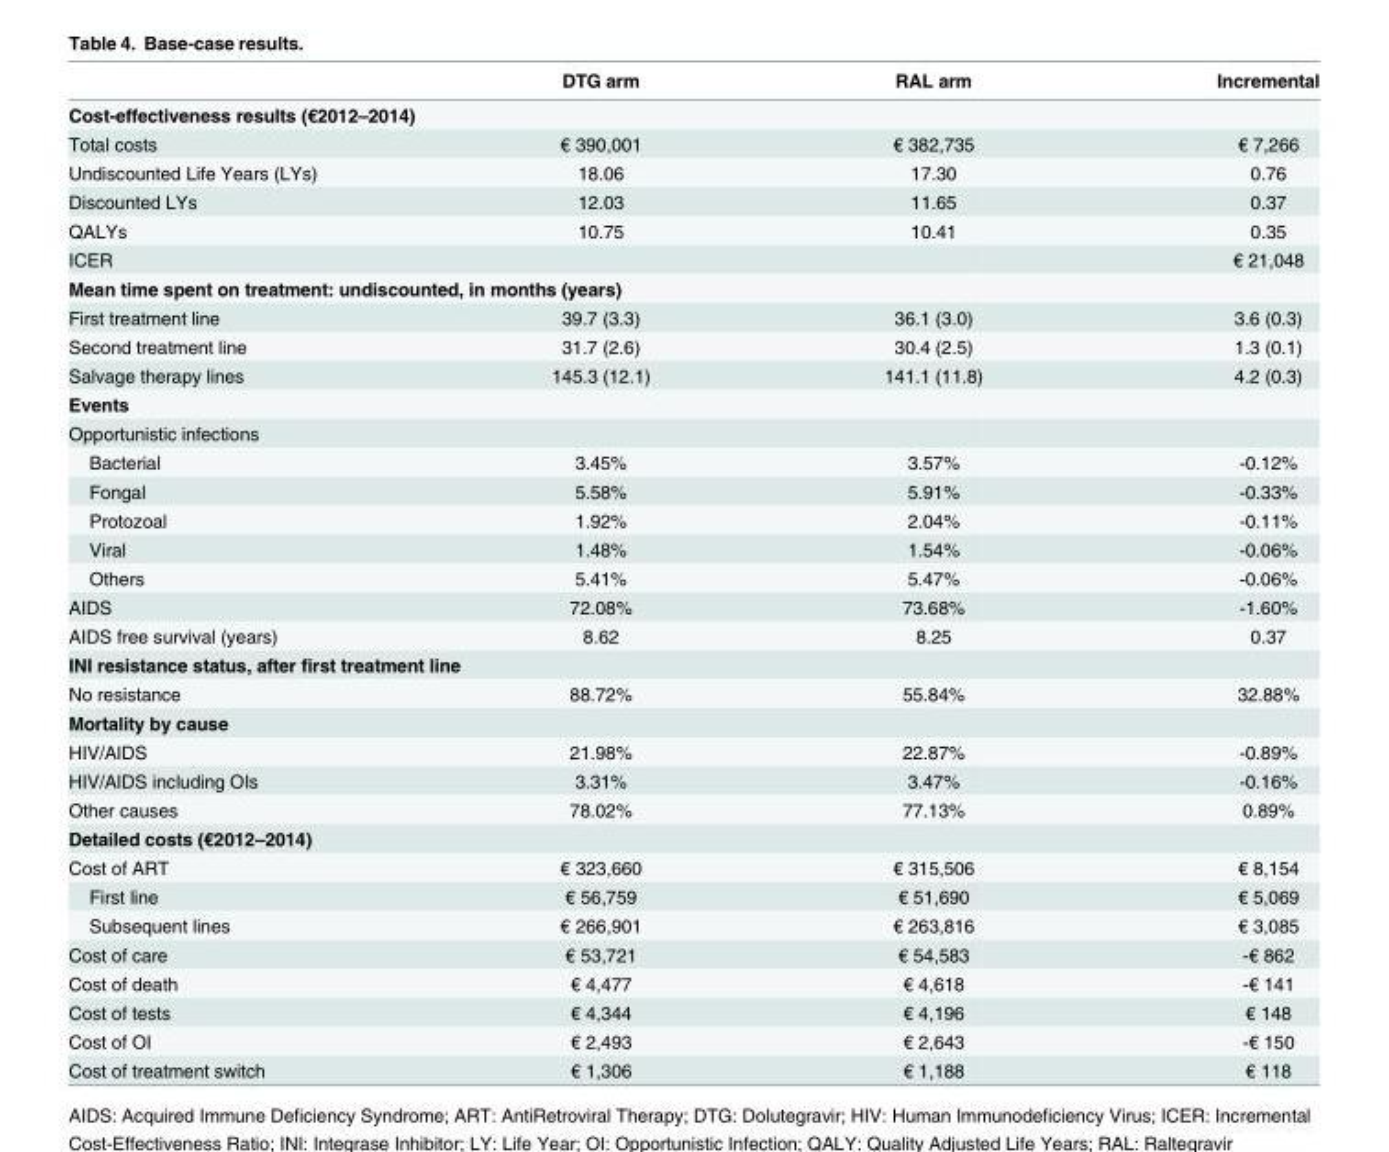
<table><thead><tr><td></td><td>DTG arm</td><td>RAL arm</td><td>Incremental</td></tr></thead><tbody><tr><td colspan="4">Cost-effectiveness results (€2012–2014)</td></tr><tr><td>Total costs</td><td>€ 390,001</td><td>€ 382,735</td><td>€ 7,266</td></tr><tr><td>Undiscounted Life Years (LYs)</td><td>18.06</td><td>17.30</td><td>0.76</td></tr><tr><td>Discounted LYs</td><td>12.03</td><td>11.65</td><td>0.37</td></tr><tr><td>QALYs</td><td>10.75</td><td>10.41</td><td>0.35</td></tr><tr><td>ICER</td><td></td><td></td><td>€ 21,048</td></tr><tr><td colspan="4">Mean time spent on treatment: undiscounted, in months (years)</td></tr><tr><td>First treatment line</td><td>39.7 (3.3)</td><td>36.1 (3.0)</td><td>3.6 (0.3)</td></tr><tr><td>Second treatment line</td><td>31.7 (2.6)</td><td>30.4 (2.5)</td><td>1.3 (0.1)</td></tr><tr><td>Salvage therapy lines</td><td>145.3 (12.1)</td><td>141.1 (11.8)</td><td>4.2 (0.3)</td></tr><tr><td colspan="4">Events</td></tr><tr><td colspan="4">Opportunistic infections</td></tr><tr><td>Bacterial</td><td>3.45%</td><td>3.57%</td><td>-0.12%</td></tr><tr><td>Fongal</td><td>5.58%</td><td>5.91%</td><td>-0.33%</td></tr><tr><td>Protozoal</td><td>1.92%</td><td>2.04%</td><td>-0.11%</td></tr><tr><td>Viral</td><td>1.48%</td><td>1.54%</td><td>-0.06%</td></tr><tr><td>Others</td><td>5.41%</td><td>5.47%</td><td>-0.06%</td></tr><tr><td>AIDS</td><td>72.08%</td><td>73.68%</td><td>-1.60%</td></tr><tr><td>AIDS free survival (years)</td><td>8.62</td><td>8.25</td><td>0.37</td></tr><tr><td colspan="4">INI resistance status, after first treatment line</td></tr><tr><td>No resistance</td><td>88.72%</td><td>55.84%</td><td>32.88%</td></tr><tr><td colspan="4">Mortality by cause</td></tr><tr><td>HIV/AIDS</td><td>21.98%</td><td>22.87%</td><td>-0.89%</td></tr><tr><td>HIV/AIDS including OIs</td><td>3.31%</td><td>3.47%</td><td>-0.16%</td></tr><tr><td>Other causes</td><td>78.02%</td><td>77.13%</td><td>0.89%</td></tr><tr><td colspan="4">Detailed costs (€2012–2014)</td></tr><tr><td>Cost of ART</td><td>€ 323,660</td><td>€ 315,506</td><td>€ 8,154</td></tr><tr><td>First line</td><td>€ 56,759</td><td>€ 51,690</td><td>€ 5,069</td></tr><tr><td>Subsequent lines</td><td>€ 266,901</td><td>€ 263,816</td><td>€ 3,085</td></tr><tr><td>Cost of care</td><td>€ 53,721</td><td>€ 54,583</td><td>-€ 862</td></tr><tr><td>Cost of death</td><td>€ 4,477</td><td>€ 4,618</td><td>-€ 141</td></tr><tr><td>Cost of tests</td><td>€ 4,344</td><td>€ 4,196</td><td>€ 148</td></tr><tr><td>Cost of OI</td><td>€ 2,493</td><td>€ 2,643</td><td>-€ 150</td></tr><tr><td>Cost of treatment switch</td><td>€ 1,306</td><td>€ 1,188</td><td>€ 118</td></tr></tbody></table>